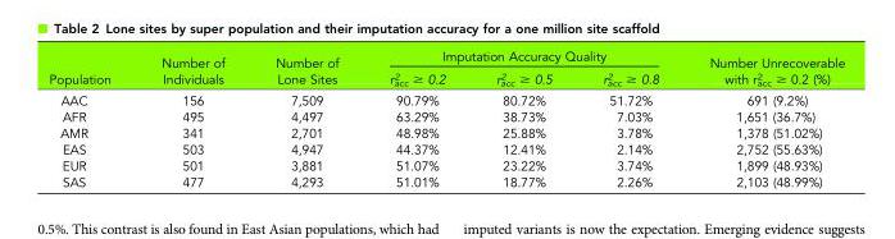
<table><thead><tr><td rowspan="2">Population</td><td rowspan="2">Number of Individuals</td><td rowspan="2">Number of Lone Sites</td><td colspan="3">Imputation Accuracy Quality</td><td rowspan="2">Number Unrecoverable with r<sup>2</sup><sub>acc</sub> ≥ 0.2 (%)</td></tr><tr><td>r<sup>2</sup><sub>acc</sub> ≥ 0.2</td><td>r<sup>2</sup><sub>acc</sub> ≥ 0.5</td><td>r<sup>2</sup><sub>acc</sub> ≥ 0.8</td></tr></thead><tbody><tr><td>AAC</td><td>156</td><td>7,509</td><td>90.79%</td><td>80.72%</td><td>51.72%</td><td>691 (9.2%)</td></tr><tr><td>AFR</td><td>495</td><td>4,497</td><td>63.29%</td><td>38.73%</td><td>7.03%</td><td>1,651 (36.7%)</td></tr><tr><td>AMR</td><td>341</td><td>2,701</td><td>48.98%</td><td>25.88%</td><td>3.78%</td><td>1,378 (51.02%)</td></tr><tr><td>EAS</td><td>503</td><td>4,947</td><td>44.37%</td><td>12.41%</td><td>2.14%</td><td>2,752 (55.63%)</td></tr><tr><td>EUR</td><td>501</td><td>3,881</td><td>51.07%</td><td>23.22%</td><td>3.74%</td><td>1,899 (48.93%)</td></tr><tr><td>SAS</td><td>477</td><td>4,293</td><td>51.01%</td><td>18.77%</td><td>2.26%</td><td>2,103 (48.99%)</td></tr></tbody></table>